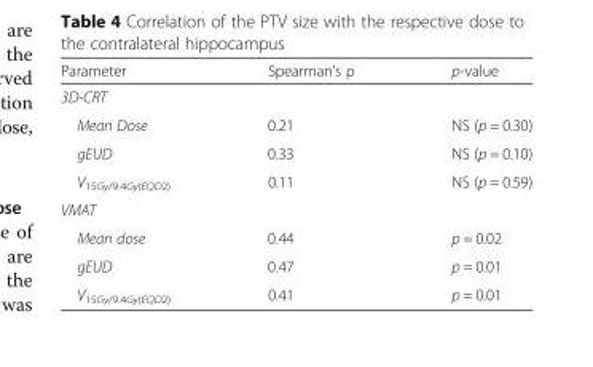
<table><thead><tr><td>Parameter</td><td>Spearman’s ρ</td><td>p-value</td></tr></thead><tbody><tr><td colspan="3">3D-CRT</td></tr><tr><td>Mean Dose</td><td>0.21</td><td>NS (p = 0.30)</td></tr><tr><td>gEUD</td><td>0.33</td><td>NS (p = 0.10)</td></tr><tr><td>V<sub>15Gy/9.4Gy(EQD2)</sub></td><td>0.11</td><td>NS (p = 0.59)</td></tr><tr><td colspan="3">VMAT</td></tr><tr><td>Mean dose</td><td>0.44</td><td>p = 0.02</td></tr><tr><td>gEUD</td><td>0.47</td><td>p = 0.01</td></tr><tr><td>V<sub>15Gy/9.4Gy(EQD2)</sub></td><td>0.41</td><td>p = 0.01</td></tr></tbody></table>